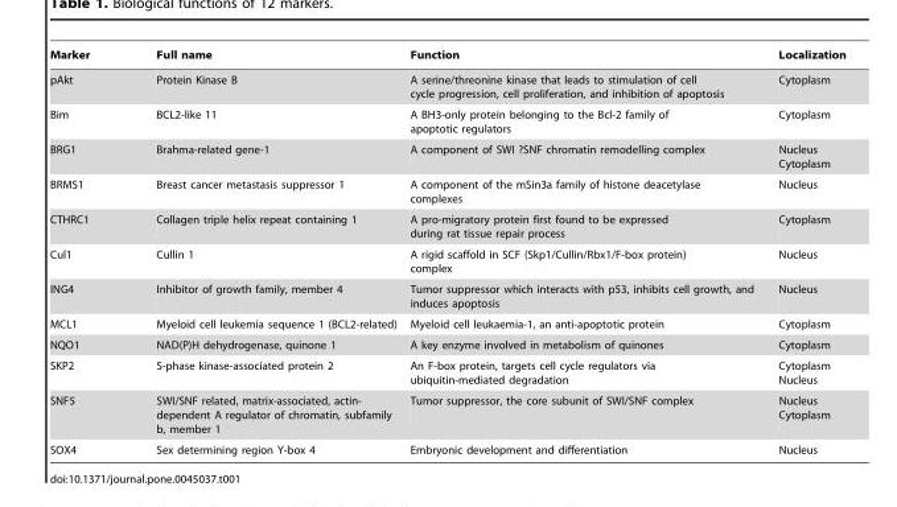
<table><thead><tr><td>Marker</td><td>Full name</td><td>Function</td><td>Localization</td></tr></thead><tbody><tr><td>pAkt</td><td>Protein Kinase B</td><td>A serine/threonine kinase that leads to stimulation of cell cycle progression, cell proliferation, and inhibition of apoptosis</td><td>Cytoplasm</td></tr><tr><td>Bim</td><td>BCL2-like 11</td><td>A BH3-only protein belonging to the Bcl-2 family of apoptotic regulators</td><td>Cytoplasm</td></tr><tr><td>BRG1</td><td>Brahma-related gene-1</td><td>A component of SWI ?SNF chromatin remodelling complex</td><td>Nucleus Cytoplasm</td></tr><tr><td>BRMS1</td><td>Breast cancer metastasis suppressor 1</td><td>A component of the mSin3a family of histone deacetylase complexes</td><td>Nucleus</td></tr><tr><td>CTHRC1</td><td>Collagen triple helix repeat containing 1</td><td>A pro-migratory protein first found to be expressed during rat tissue repair process</td><td>Cytoplasm</td></tr><tr><td>Cul1</td><td>Cullin 1</td><td>A rigid scaffold in SCF (Skp1/Cullin/Rbx1/F-box protein) complex</td><td>Nucleus</td></tr><tr><td>ING4</td><td>Inhibitor of growth family, member 4</td><td>Tumor suppressor which interacts with p53, inhibits cell growth, and induces apoptosis</td><td>Nucleus</td></tr><tr><td>MCL1</td><td>Myeloid cell leukemia sequence 1 (BCL2-related)</td><td>Myeloid cell leukaemia-1, an anti-apoptotic protein</td><td>Cytoplasm</td></tr><tr><td>NQO1</td><td>NAD(P)H dehydrogenase, quinone 1</td><td>A key enzyme involved in metabolism of quinones</td><td>Cytoplasm</td></tr><tr><td>SKP2</td><td>S-phase kinase-associated protein 2</td><td>An F-box protein, targets cell cycle regulators via ubiquitin-mediated degradation</td><td>Cytoplasm Nucleus</td></tr><tr><td>SNF5</td><td>SWI/SNF related, matrix-associated, actin- dependent A regulator of chromatin, subfamily b, member 1</td><td>Tumor suppressor, the core subunit of SWI/SNF complex</td><td>Nucleus Cytoplasm</td></tr><tr><td>SOX4</td><td>Sex determining region Y-box 4</td><td>Embryonic development and differentiation</td><td>Nucleus</td></tr></tbody></table>